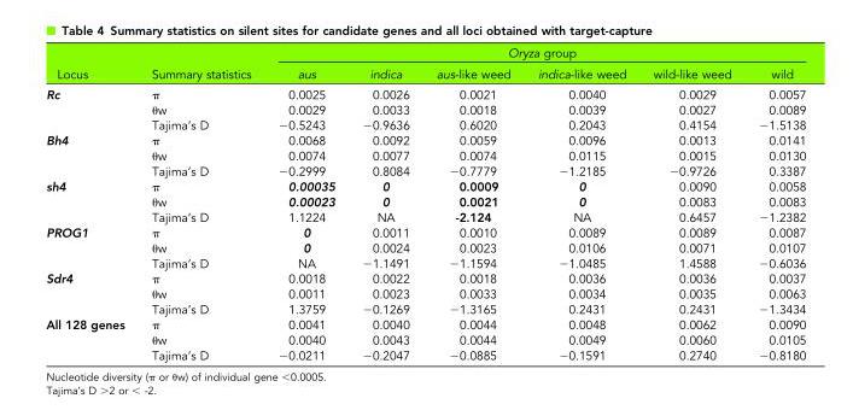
<table><thead><tr><td rowspan="2">Locus</td><td rowspan="2">Summary statistics</td><td colspan="6">Oryza group</td></tr><tr><td>aus</td><td>indica</td><td>aus-like weed</td><td>indica-like weed</td><td>wild-like weed</td><td>wild</td></tr></thead><tbody><tr><td rowspan="3">Rc</td><td>π</td><td>0.0025</td><td>0.0026</td><td>0.0021</td><td>0.0040</td><td>0.0029</td><td>0.0057</td></tr><tr><td>θw</td><td>0.0029</td><td>0.0033</td><td>0.0018</td><td>0.0039</td><td>0.0027</td><td>0.0089</td></tr><tr><td>Tajima’s D</td><td>−0.5243</td><td>−0.9636</td><td>0.6020</td><td>0.2043</td><td>0.4154</td><td>−1.5138</td></tr><tr><td rowspan="3">Bh4</td><td>π</td><td>0.0068</td><td>0.0092</td><td>0.0059</td><td>0.0096</td><td>0.0013</td><td>0.0141</td></tr><tr><td>θw</td><td>0.0074</td><td>0.0077</td><td>0.0074</td><td>0.0115</td><td>0.0015</td><td>0.0130</td></tr><tr><td>Tajima’s D</td><td>−0.2999</td><td>0.8084</td><td>−0.7779</td><td>−1.2185</td><td>−0.9726</td><td>0.3387</td></tr><tr><td rowspan="3">sh4</td><td>π</td><td>0.00035</td><td>0</td><td>0.0009</td><td>0</td><td>0.0090</td><td>0.0058</td></tr><tr><td>θw</td><td>0.00023</td><td>0</td><td>0.0021</td><td>0</td><td>0.0083</td><td>0.0083</td></tr><tr><td>Tajima’s D</td><td>1.1224</td><td>NA</td><td>-2.124</td><td>NA</td><td>0.6457</td><td>−1.2382</td></tr><tr><td rowspan="3">PROG1</td><td>π</td><td>0</td><td>0.0011</td><td>0.0010</td><td>0.0089</td><td>0.0089</td><td>0.0087</td></tr><tr><td>θw</td><td>0</td><td>0.0024</td><td>0.0023</td><td>0.0106</td><td>0.0071</td><td>0.0107</td></tr><tr><td>Tajima’s D</td><td>NA</td><td>−1.1491</td><td>−1.1594</td><td>−1.0485</td><td>1.4588</td><td>−0.6036</td></tr><tr><td rowspan="3">Sdr4</td><td>π</td><td>0.0018</td><td>0.0022</td><td>0.0018</td><td>0.0036</td><td>0.0036</td><td>0.0037</td></tr><tr><td>θw</td><td>0.0011</td><td>0.0023</td><td>0.0033</td><td>0.0034</td><td>0.0035</td><td>0.0063</td></tr><tr><td>Tajima’s D</td><td>1.3759</td><td>−0.1269</td><td>−1.3165</td><td>0.2431</td><td>0.2431</td><td>−1.3434</td></tr><tr><td rowspan="3">All 128 genes</td><td>π</td><td>0.0041</td><td>0.0040</td><td>0.0044</td><td>0.0048</td><td>0.0062</td><td>0.0090</td></tr><tr><td>θw</td><td>0.0040</td><td>0.0043</td><td>0.0044</td><td>0.0049</td><td>0.0060</td><td>0.0105</td></tr><tr><td>Tajima’s D</td><td>−0.0211</td><td>−0.2047</td><td>−0.0885</td><td>−0.1591</td><td>0.2740</td><td>−0.8180</td></tr></tbody></table>